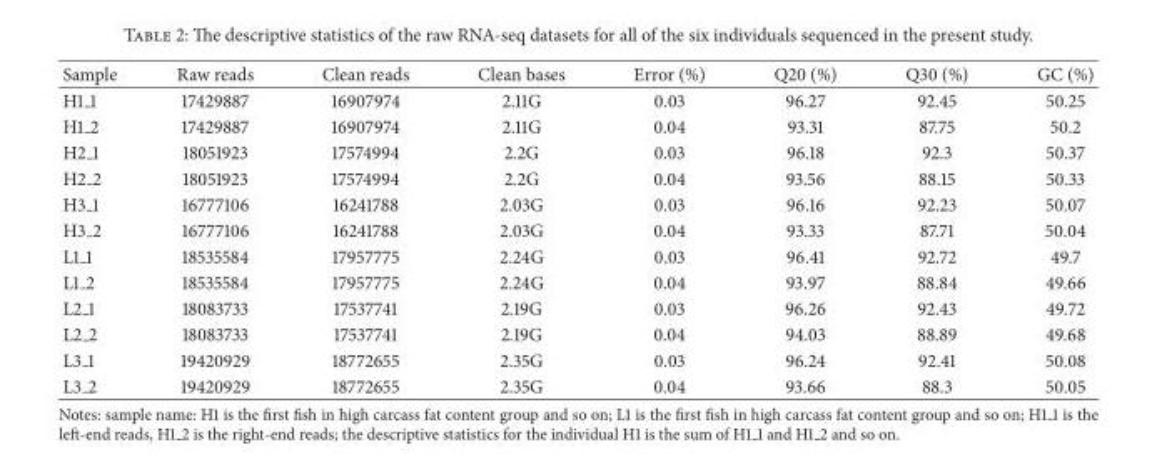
<table><thead><tr><td>Sample</td><td>Raw reads</td><td>Clean reads</td><td>Clean bases</td><td>Error (%)</td><td>Q20 (%)</td><td>Q30 (%)</td><td>GC (%)</td></tr></thead><tbody><tr><td>H1 1</td><td>17429887</td><td>16907974</td><td>2.11G</td><td>0.03</td><td>96.27</td><td>92.45</td><td>50.25</td></tr><tr><td>H1 2</td><td>17429887</td><td>16907974</td><td>2.11G</td><td>0.04</td><td>93.31</td><td>87.75</td><td>50.2</td></tr><tr><td>H2 1</td><td>18051923</td><td>17574994</td><td>2.2G</td><td>0.03</td><td>96.18</td><td>92.3</td><td>50.37</td></tr><tr><td>H2 2</td><td>18051923</td><td>17574994</td><td>2.2G</td><td>0.04</td><td>93.56</td><td>88.15</td><td>50.33</td></tr><tr><td>H3 1</td><td>16777106</td><td>16241788</td><td>2.03G</td><td>0.03</td><td>96.16</td><td>92.23</td><td>50.07</td></tr><tr><td>H3 2</td><td>16777106</td><td>16241788</td><td>2.03G</td><td>0.04</td><td>93.33</td><td>87.71</td><td>50.04</td></tr><tr><td>L1 1</td><td>18535584</td><td>17957775</td><td>2.24G</td><td>0.03</td><td>96.41</td><td>92.72</td><td>49.7</td></tr><tr><td>L1 2</td><td>18535584</td><td>17957775</td><td>2.24G</td><td>0.04</td><td>93.97</td><td>88.84</td><td>49.66</td></tr><tr><td>L2 1</td><td>18083733</td><td>17537741</td><td>2.19G</td><td>0.03</td><td>96.26</td><td>92.43</td><td>49.72</td></tr><tr><td>L2 2</td><td>18083733</td><td>17537741</td><td>2.19G</td><td>0.04</td><td>94.03</td><td>88.89</td><td>49.68</td></tr><tr><td>L3 1</td><td>19420929</td><td>18772655</td><td>2.35G</td><td>0.03</td><td>96.24</td><td>92.41</td><td>50.08</td></tr><tr><td>L3 2</td><td>19420929</td><td>18772655</td><td>2.35G</td><td>0.04</td><td>93.66</td><td>88.3</td><td>50.05</td></tr></tbody></table>